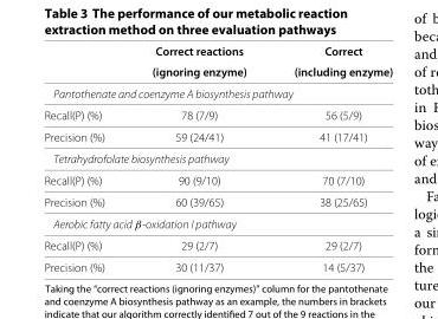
<table><thead><tr><td rowspan="2"></td><td rowspan="2">Correct reactions (ignoring enzyme)</td><td rowspan="2">Correct (including enzyme)</td></tr><tr></tr></thead><tbody><tr><td colspan="3">Pantothenate and coenzyme A biosynthesis pathway</td></tr><tr><td>Recall(P) (%)</td><td>78 (7/9)</td><td>56 (5/9)</td></tr><tr><td>Precision (%)</td><td>59 (24/41)</td><td>41 (17/41)</td></tr><tr><td colspan="3">Tetrahydrofolate biosynthesis pathway</td></tr><tr><td>Recall(P) (%)</td><td>90 (9/10)</td><td>70 (7/10)</td></tr><tr><td>Precision (%)</td><td>60 (39/65)</td><td>38 (25/65)</td></tr><tr><td colspan="3">Aerobic fatty acid β-oxidation I pathway</td></tr><tr><td>Recall(P) (%)</td><td>29 (2/7)</td><td>29 (2/7)</td></tr><tr><td>Precision (%)</td><td>30 (11/37)</td><td>14 (5/37)</td></tr></tbody></table>